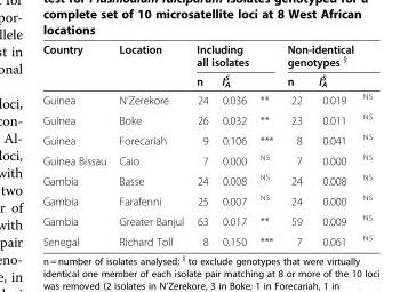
<table><thead><tr><td rowspan="2">Country</td><td rowspan="2">Location</td><td colspan="3">Including all isolates</td><td colspan="3">Non-identical genotypes <sup>§</sup></td></tr><tr><td>n</td><td>I<sub>A</sub> <sup>S</sup></td><td></td><td>n</td><td>I<sub>A</sub> <sup>S</sup></td><td></td></tr></thead><tbody><tr><td>Guinea</td><td>N’Zerekore</td><td>24</td><td>0.036</td><td>**</td><td>22</td><td>0.019</td><td><sup>NS</sup></td></tr><tr><td>Guinea</td><td>Boke</td><td>26</td><td>0.032</td><td>**</td><td>23</td><td>0.011</td><td><sup>NS</sup></td></tr><tr><td>Guinea</td><td>Forecariah</td><td>9</td><td>0.106</td><td>***</td><td>8</td><td>0.041</td><td><sup>NS</sup></td></tr><tr><td>Guinea Bissau</td><td>Caio</td><td>7</td><td>0.000</td><td><sup>NS</sup></td><td>7</td><td>0.000</td><td><sup>NS</sup></td></tr><tr><td>Gambia</td><td>Basse</td><td>24</td><td>0.008</td><td><sup>NS</sup></td><td>24</td><td>0.008</td><td><sup>NS</sup></td></tr><tr><td>Gambia</td><td>Farafenni</td><td>25</td><td>0.007</td><td><sup>NS</sup></td><td>24</td><td>0.000</td><td><sup>NS</sup></td></tr><tr><td>Gambia</td><td>Greater Banjul</td><td>63</td><td>0.017</td><td>**</td><td>59</td><td>0.009</td><td><sup>NS</sup></td></tr><tr><td>Senegal</td><td>Richard Toll</td><td>8</td><td>0.150</td><td>***</td><td>7</td><td>0.061</td><td><sup>NS</sup></td></tr></tbody></table>